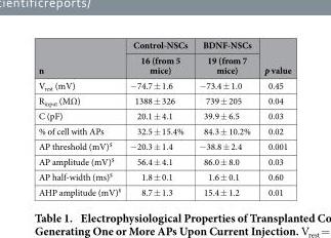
<table><thead><tr><td rowspan="2">n</td><td rowspan="2">Control-NSCs 16 (from 5 mice)</td><td rowspan="2">BDNF-NSCs 19 (from 7 mice)</td><td rowspan="2">p value</td></tr><tr></tr></thead><tbody><tr><td>V<sub>rest</sub> (mV)</td><td>− 74.7 ± 1.6</td><td>− 73.4 ± 1.0</td><td>0.45</td></tr><tr><td>R<sub>input</sub> (MΩ)</td><td>1388 ± 326</td><td>739 ± 205</td><td>0.04</td></tr><tr><td>C (pF)</td><td>20.1 ± 4.1</td><td>39.9 ± 6.5</td><td>0.03</td></tr><tr><td>% of cell with APs</td><td>32.5 ± 15.4%</td><td>84.3 ± 10.2%</td><td>0.02</td></tr><tr><td>AP threshold (mV)$</td><td>− 20.3 ± 1.4</td><td>− 38.8 ± 2.4</td><td>0.001</td></tr><tr><td>AP amplitude (mV)$</td><td>56.4 ± 4.1</td><td>86.0 ± 8.0</td><td>0.03</td></tr><tr><td>AP half-width (ms)$</td><td>1.8 ± 0.1</td><td>1.6 ± 0.1</td><td>0.60</td></tr><tr><td>AHP amplitude (mV)$</td><td>8.7 ± 1.3</td><td>15.4 ± 1.2</td><td>0.01</td></tr></tbody></table>